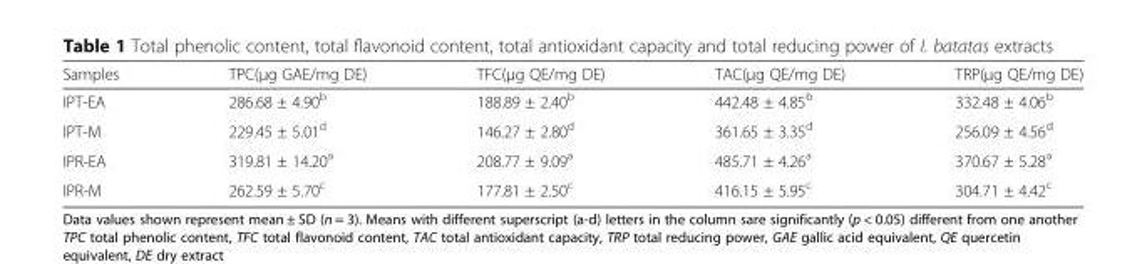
<table><thead><tr><td>Samples</td><td>TPC(μg GAE/mg DE)</td><td>TFC(μg QE/mg DE)</td><td>TAC(μg QE/mg DE)</td><td>TRP(μg QE/mg DE)</td></tr></thead><tbody><tr><td>IPT-EA</td><td>286.68 ± 4.90<sup>b</sup></td><td>188.89 ± 2.40<sup>b</sup></td><td>442.48 ± 4.85<sup>b</sup></td><td>332.48 ± 4.06<sup>b</sup></td></tr><tr><td>IPT-M</td><td>229.45 ± 5.01<sup>d</sup></td><td>146.27 ± 2.80<sup>d</sup></td><td>361.65 ± 3.35<sup>d</sup></td><td>256.09 ± 4.56<sup>d</sup></td></tr><tr><td>IPR-EA</td><td>319.81 ± 14.20<sup>a</sup></td><td>208.77 ± 9.09<sup>a</sup></td><td>485.71 ± 4.26<sup>a</sup></td><td>370.67 ± 5.28<sup>a</sup></td></tr><tr><td>IPR-M</td><td>262.59 ± 5.70<sup>c</sup></td><td>177.81 ± 2.50<sup>c</sup></td><td>416.15 ± 5.95<sup>c</sup></td><td>304.71 ± 4.42<sup>c</sup></td></tr></tbody></table>